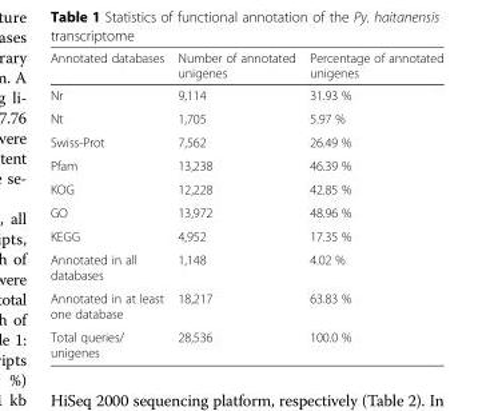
<table><thead><tr><td>Annotated databases</td><td>Number of annotated unigenes</td><td>Percentage of annotated unigenes</td></tr></thead><tbody><tr><td>Nr</td><td>9,114</td><td>31.93 %</td></tr><tr><td>Nt</td><td>1,705</td><td>5.97 %</td></tr><tr><td>Swiss-Prot</td><td>7,562</td><td>26.49 %</td></tr><tr><td>Pfam</td><td>13,238</td><td>46.39 %</td></tr><tr><td>KOG</td><td>12,228</td><td>42.85 %</td></tr><tr><td>GO</td><td>13,972</td><td>48.96 %</td></tr><tr><td>KEGG</td><td>4,952</td><td>17.35 %</td></tr><tr><td>Annotated in all databases</td><td>1,148</td><td>4.02 %</td></tr><tr><td>Annotated in at least one database</td><td>18,217</td><td>63.83 %</td></tr><tr><td>Total queries/ unigenes</td><td>28,536</td><td>100.0 %</td></tr></tbody></table>